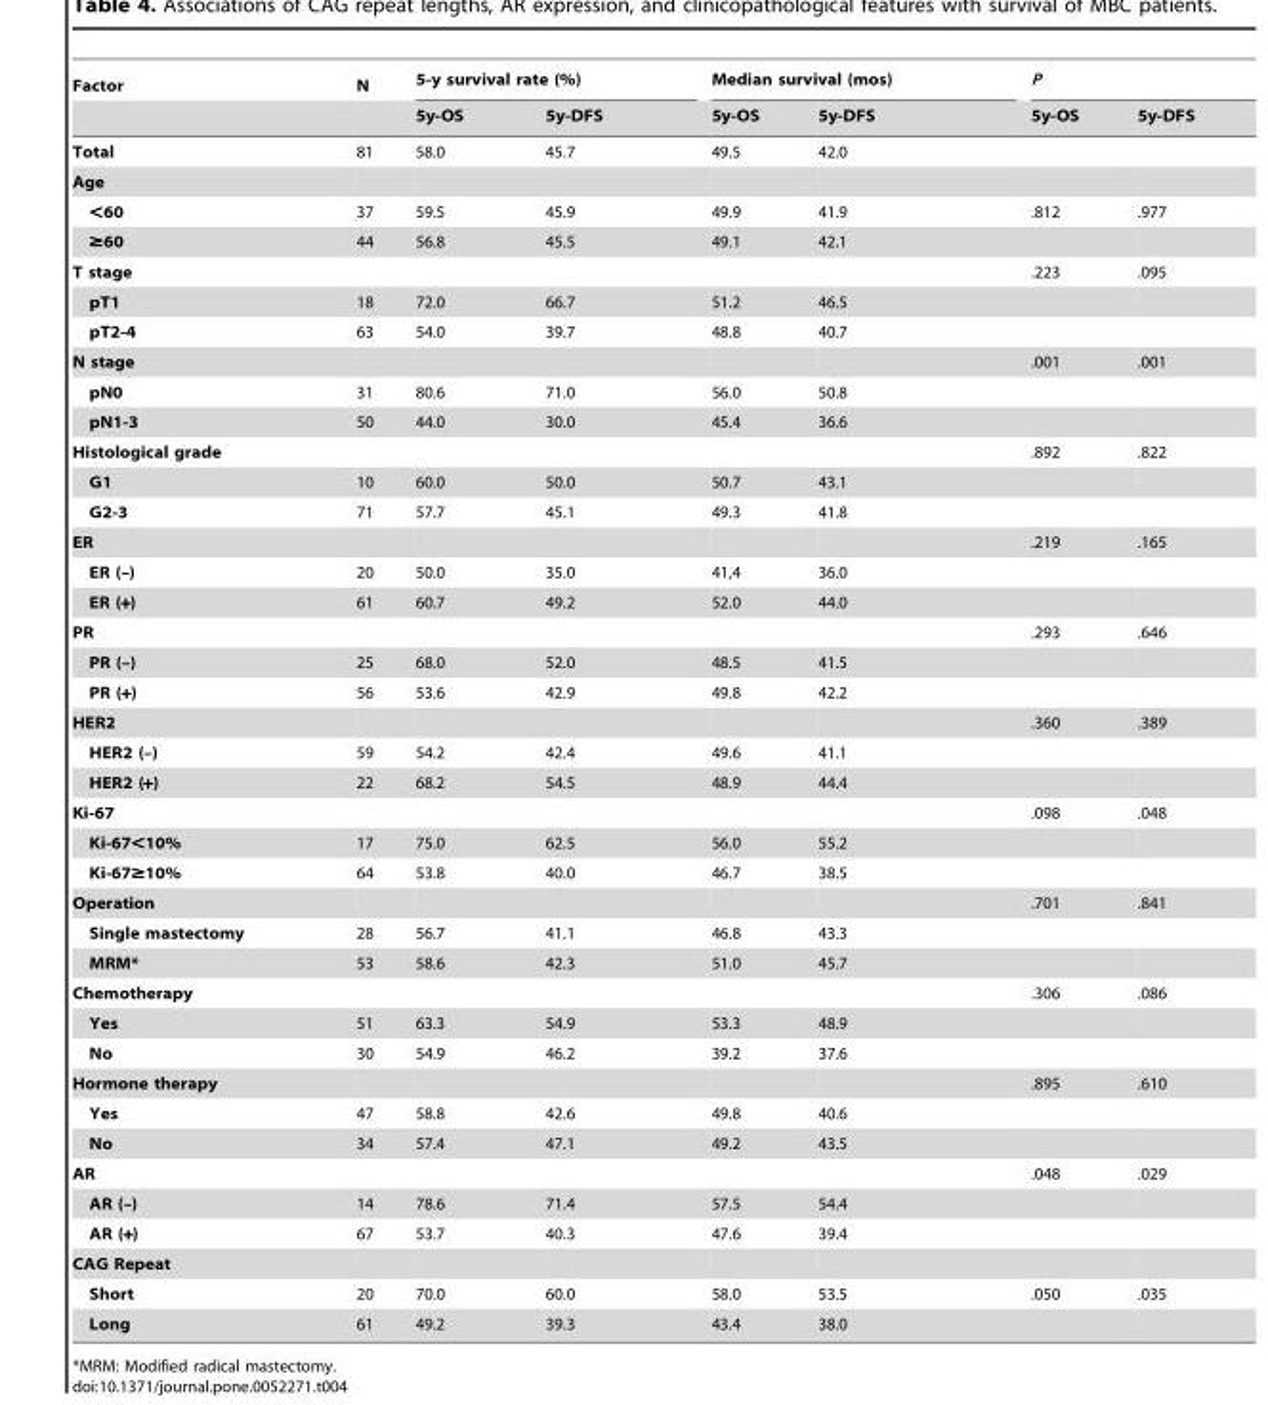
<table><thead><tr><td rowspan="2">Factor</td><td rowspan="2">N</td><td colspan="2">5-y survival rate (%)</td><td colspan="2">Median survival (mos)</td><td colspan="2">P</td></tr><tr><td>5y-OS</td><td>5y-DFS</td><td>5y-OS</td><td>5y-DFS</td><td>5y-OS</td><td>5y-DFS</td></tr></thead><tbody><tr><td>Total</td><td>81</td><td>58.0</td><td>45.7</td><td>49.5</td><td>42.0</td><td></td><td></td></tr><tr><td colspan="8">Age</td></tr><tr><td>&lt;60</td><td>37</td><td>59.5</td><td>45.9</td><td>49.9</td><td>41.9</td><td>.812</td><td>.977</td></tr><tr><td>≥60</td><td>44</td><td>56.8</td><td>45.5</td><td>49.1</td><td>42.1</td><td></td><td></td></tr><tr><td>T stage</td><td></td><td></td><td></td><td></td><td></td><td>.223</td><td>.095</td></tr><tr><td>pT1</td><td>18</td><td>72.0</td><td>66.7</td><td>51.2</td><td>46.5</td><td></td><td></td></tr><tr><td>pT2-4</td><td>63</td><td>54.0</td><td>39.7</td><td>48.8</td><td>40.7</td><td></td><td></td></tr><tr><td>N stage</td><td></td><td></td><td></td><td></td><td></td><td>.001</td><td>.001</td></tr><tr><td>pN0</td><td>31</td><td>80.6</td><td>71.0</td><td>56.0</td><td>50.8</td><td></td><td></td></tr><tr><td>pN1-3</td><td>50</td><td>44.0</td><td>30.0</td><td>45.4</td><td>36.6</td><td></td><td></td></tr><tr><td>Histological grade</td><td></td><td></td><td></td><td></td><td></td><td>.892</td><td>.822</td></tr><tr><td>G1</td><td>10</td><td>60.0</td><td>50.0</td><td>50.7</td><td>43.1</td><td></td><td></td></tr><tr><td>G2-3</td><td>71</td><td>57.7</td><td>45.1</td><td>49.3</td><td>41.8</td><td></td><td></td></tr><tr><td>ER</td><td></td><td></td><td></td><td></td><td></td><td>.219</td><td>.165</td></tr><tr><td>ER (–)</td><td>20</td><td>50.0</td><td>35.0</td><td>41,4</td><td>36.0</td><td></td><td></td></tr><tr><td>ER (+)</td><td>61</td><td>60.7</td><td>49.2</td><td>52.0</td><td>44.0</td><td></td><td></td></tr><tr><td>PR</td><td></td><td></td><td></td><td></td><td></td><td>.293</td><td>.646</td></tr><tr><td>PR (–)</td><td>25</td><td>68.0</td><td>52.0</td><td>48.5</td><td>41.5</td><td></td><td></td></tr><tr><td>PR (+)</td><td>56</td><td>53.6</td><td>42.9</td><td>49.8</td><td>42.2</td><td></td><td></td></tr><tr><td>HER2</td><td></td><td></td><td></td><td></td><td></td><td>.360</td><td>.389</td></tr><tr><td>HER2 (–)</td><td>59</td><td>54.2</td><td>42.4</td><td>49.6</td><td>41.1</td><td></td><td></td></tr><tr><td>HER2 (+)</td><td>22</td><td>68.2</td><td>54.5</td><td>48.9</td><td>44.4</td><td></td><td></td></tr><tr><td>Ki-67</td><td></td><td></td><td></td><td></td><td></td><td>.098</td><td>.048</td></tr><tr><td>Ki-67&lt;10%</td><td>17</td><td>75.0</td><td>62.5</td><td>56.0</td><td>55.2</td><td></td><td></td></tr><tr><td>Ki-67≥10%</td><td>64</td><td>53.8</td><td>40.0</td><td>46.7</td><td>38.5</td><td></td><td></td></tr><tr><td>Operation</td><td></td><td></td><td></td><td></td><td></td><td>.701</td><td>.841</td></tr><tr><td>Single mastectomy</td><td>28</td><td>56.7</td><td>41.1</td><td>46.8</td><td>43.3</td><td></td><td></td></tr><tr><td>MRM*</td><td>53</td><td>58.6</td><td>42.3</td><td>51.0</td><td>45.7</td><td></td><td></td></tr><tr><td>Chemotherapy</td><td></td><td></td><td></td><td></td><td></td><td>.306</td><td>.086</td></tr><tr><td>Yes</td><td>51</td><td>63.3</td><td>54.9</td><td>53.3</td><td>48.9</td><td></td><td></td></tr><tr><td>No</td><td>30</td><td>54.9</td><td>46.2</td><td>39.2</td><td>37.6</td><td></td><td></td></tr><tr><td>Hormone therapy</td><td></td><td></td><td></td><td></td><td></td><td>.895</td><td>.610</td></tr><tr><td>Yes</td><td>47</td><td>58.8</td><td>42.6</td><td>49.8</td><td>40.6</td><td></td><td></td></tr><tr><td>No</td><td>34</td><td>57.4</td><td>47.1</td><td>49.2</td><td>43.5</td><td></td><td></td></tr><tr><td>AR</td><td></td><td></td><td></td><td></td><td></td><td>.048</td><td>.029</td></tr><tr><td>AR (–)</td><td>14</td><td>78.6</td><td>71.4</td><td>57.5</td><td>54.4</td><td></td><td></td></tr><tr><td>AR (+)</td><td>67</td><td>53.7</td><td>40.3</td><td>47.6</td><td>39.4</td><td></td><td></td></tr><tr><td colspan="8">CAG Repeat</td></tr><tr><td>Short</td><td>20</td><td>70.0</td><td>60.0</td><td>58.0</td><td>53.5</td><td>.050</td><td>.035</td></tr><tr><td>Long</td><td>61</td><td>49.2</td><td>39.3</td><td>43.4</td><td>38.0</td><td></td><td></td></tr></tbody></table>